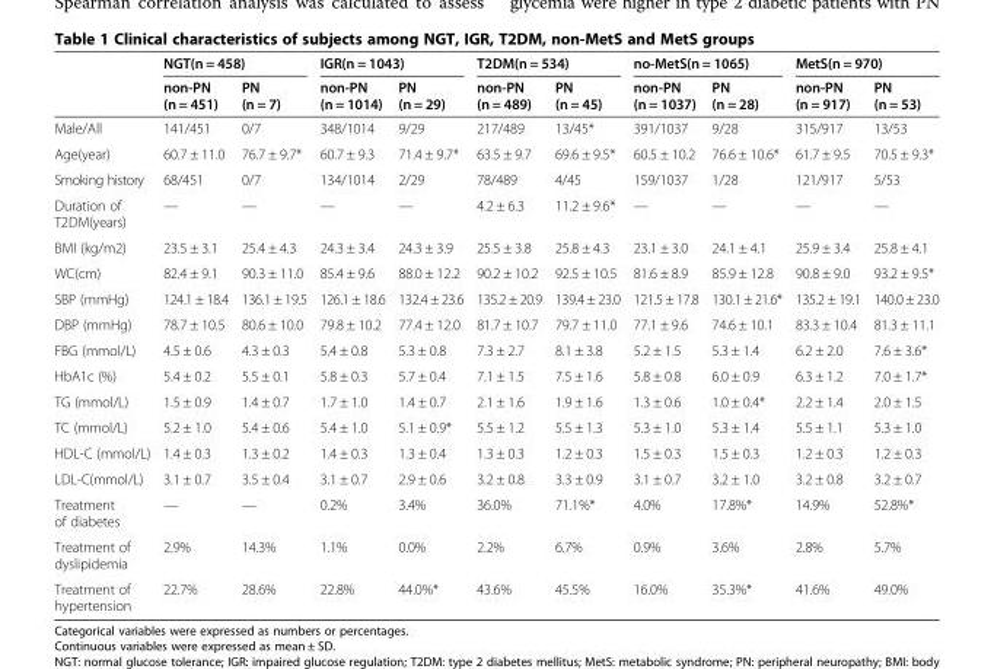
<table><thead><tr><td rowspan="2"></td><td colspan="2">NGT(n = 458)</td><td colspan="2">IGR(n = 1043)</td><td colspan="2">T2DM(n = 534)</td><td colspan="2">no-MetS(n = 1065)</td><td colspan="2">MetS(n = 970)</td></tr><tr><td>non-PN (n = 451)</td><td>PN (n = 7)</td><td>non-PN (n = 1014)</td><td>PN (n = 29)</td><td>non-PN (n = 489)</td><td>PN (n = 45)</td><td>non-PN (n = 1037)</td><td>PN (n = 28)</td><td>non-PN (n = 917)</td><td>PN (n = 53)</td></tr></thead><tbody><tr><td>Male/All</td><td>141/451</td><td>0/7</td><td>348/1014</td><td>9/29</td><td>217/489</td><td>13/45*</td><td>391/1037</td><td>9/28</td><td>315/917</td><td>13/53</td></tr><tr><td>Age(year)</td><td>60.7 ± 11.0</td><td>76.7 ± 9.7*</td><td>60.7 ± 9.3</td><td>71.4 ± 9.7*</td><td>63.5 ± 9.7</td><td>69.6 ± 9.5*</td><td>60.5 ± 10.2</td><td>76.6 ± 10.6*</td><td>61.7 ± 9.5</td><td>70.5 ± 9.3*</td></tr><tr><td>Smoking history</td><td>68/451</td><td>0/7</td><td>134/1014</td><td>2/29</td><td>78/489</td><td>4/45</td><td>159/1037</td><td>1/28</td><td>121/917</td><td>5/53</td></tr><tr><td>Duration of T2DM(years)</td><td>—</td><td>—</td><td>—</td><td>—</td><td>4.2 ± 6.3</td><td>11.2 ± 9.6*</td><td>—</td><td>—</td><td>—</td><td>—</td></tr><tr><td>BMI (kg/m2)</td><td>23.5 ± 3.1</td><td>25.4 ± 4.3</td><td>24.3 ± 3.4</td><td>24.3 ± 3.9</td><td>25.5 ± 3.8</td><td>25.8 ± 4.3</td><td>23.1 ± 3.0</td><td>24.1 ± 4.1</td><td>25.9 ± 3.4</td><td>25.8 ± 4.1</td></tr><tr><td>WC(cm)</td><td>82.4 ± 9.1</td><td>90.3 ± 11.0</td><td>85.4 ± 9.6</td><td>88.0 ± 12.2</td><td>90.2 ± 10.2</td><td>92.5 ± 10.5</td><td>81.6 ± 8.9</td><td>85.9 ± 12.8</td><td>90.8 ± 9.0</td><td>93.2 ± 9.5*</td></tr><tr><td>SBP (mmHg)</td><td>124.1 ± 18.4</td><td>136.1 ± 19.5</td><td>126.1 ± 18.6</td><td>132.4 ± 23.6</td><td>135.2 ± 20.9</td><td>139.4 ± 23.0</td><td>121.5 ± 17.8</td><td>130.1 ± 21.6*</td><td>135.2 ± 19.1</td><td>140.0 ± 23.0</td></tr><tr><td>DBP (mmHg)</td><td>78.7 ± 10.5</td><td>80.6 ± 10.0</td><td>79.8 ± 10.2</td><td>77.4 ± 12.0</td><td>81.7 ± 10.7</td><td>79.7 ± 11.0</td><td>77.1 ± 9.6</td><td>74.6 ± 10.1</td><td>83.3 ± 10.4</td><td>81.3 ± 11.1</td></tr><tr><td>FBG (mmol/L)</td><td>4.5 ± 0.6</td><td>4.3 ± 0.3</td><td>5.4 ± 0.8</td><td>5.3 ± 0.8</td><td>7.3 ± 2.7</td><td>8.1 ± 3.8</td><td>5.2 ± 1.5</td><td>5.3 ± 1.4</td><td>6.2 ± 2.0</td><td>7.6 ± 3.6*</td></tr><tr><td>HbA1c (%)</td><td>5.4 ± 0.2</td><td>5.5 ± 0.1</td><td>5.8 ± 0.3</td><td>5.7 ± 0.4</td><td>7.1 ± 1.5</td><td>7.5 ± 1.6</td><td>5.8 ± 0.8</td><td>6.0 ± 0.9</td><td>6.3 ± 1.2</td><td>7.0 ± 1.7*</td></tr><tr><td>TG (mmol/L)</td><td>1.5 ± 0.9</td><td>1.4 ± 0.7</td><td>1.7 ± 1.0</td><td>1.4 ± 0.7</td><td>2.1 ± 1.6</td><td>1.9 ± 1.6</td><td>1.3 ± 0.6</td><td>1.0 ± 0.4*</td><td>2.2 ± 1.4</td><td>2.0 ± 1.5</td></tr><tr><td>TC (mmol/L)</td><td>5.2 ± 1.0</td><td>5.4 ± 0.6</td><td>5.4 ± 1.0</td><td>5.1 ± 0.9*</td><td>5.5 ± 1.2</td><td>5.5 ± 1.3</td><td>5.3 ± 1.0</td><td>5.3 ± 1.4</td><td>5.5 ± 1.1</td><td>5.3 ± 1.0</td></tr><tr><td>HDL-C (mmol/L)</td><td>1.4 ± 0.3</td><td>1.3 ± 0.2</td><td>1.4 ± 0.3</td><td>1.3 ± 0.4</td><td>1.3 ± 0.3</td><td>1.2 ± 0.3</td><td>1.5 ± 0.3</td><td>1.5 ± 0.3</td><td>1.2 ± 0.3</td><td>1.2 ± 0.3</td></tr><tr><td>LDL-C(mmol/L)</td><td>3.1 ± 0.7</td><td>3.5 ± 0.4</td><td>3.1 ± 0.7</td><td>2.9 ± 0.6</td><td>3.2 ± 0.8</td><td>3.3 ± 0.9</td><td>3.1 ± 0.7</td><td>3.2 ± 1.0</td><td>3.2 ± 0.8</td><td>3.2 ± 0.7</td></tr><tr><td>Treatment of diabetes</td><td>—</td><td>—</td><td>0.2%</td><td>3.4%</td><td>36.0%</td><td>71.1%*</td><td>4.0%</td><td>17.8%*</td><td>14.9%</td><td>52.8%*</td></tr><tr><td>Treatment of dyslipidemia</td><td>2.9%</td><td>14.3%</td><td>1.1%</td><td>0.0%</td><td>2.2%</td><td>6.7%</td><td>0.9%</td><td>3.6%</td><td>2.8%</td><td>5.7%</td></tr><tr><td>Treatment of hypertension</td><td>22.7%</td><td>28.6%</td><td>22.8%</td><td>44.0%*</td><td>43.6%</td><td>45.5%</td><td>16.0%</td><td>35.3%*</td><td>41.6%</td><td>49.0%</td></tr></tbody></table>